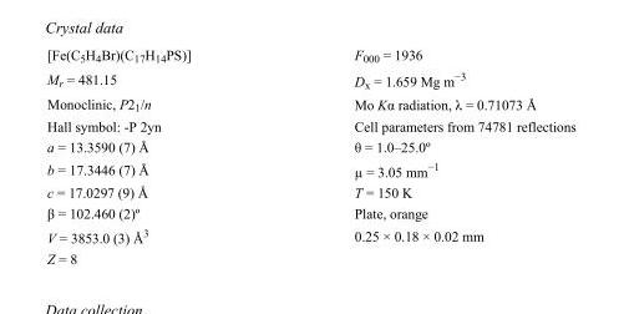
<table><tbody><tr><td>[Fe(C<sub>5</sub>H<sub>4</sub>Br)(C<sub>17</sub>H<sub>14</sub>PS)]</td><td>F000 = 1936</td></tr><tr><td>M<sub>r</sub> = 481.15</td><td>D<sub>x</sub> = 1.659 Mg m<sup>−3</sup></td></tr><tr><td>Monoclinic, P2<sub>1</sub>/n</td><td>Mo Kα radiation, λ = 0.71073 Å</td></tr><tr><td>Hall symbol: -P 2yn</td><td>Cell parameters from 74781 reflections</td></tr><tr><td>a = 13.3590 (7) Å</td><td>θ = 1.0–25.0º</td></tr><tr><td>b = 17.3446 (7) Å</td><td>µ = 3.05 mm<sup>−1</sup></td></tr><tr><td>c = 17.0297 (9) Å</td><td>T = 150 K</td></tr><tr><td>β = 102.460 (2)º</td><td>Plate, orange</td></tr><tr><td>V = 3853.0 (3) Å<sup>3</sup></td><td>0.25 × 0.18 × 0.02 mm</td></tr><tr><td>Z = 8</td><td></td></tr></tbody></table>